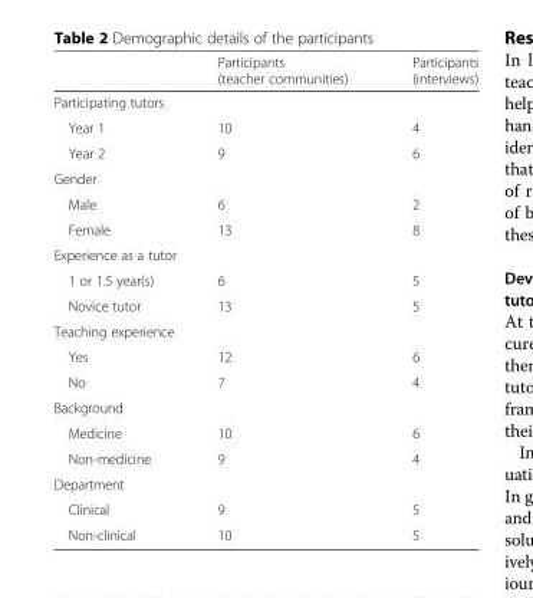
<table><thead><tr><td></td><td>Participants (teacher communities)</td><td>Participants (interviews)</td></tr></thead><tbody><tr><td colspan="3">Participating tutors</td></tr><tr><td>Year 1</td><td>10</td><td>4</td></tr><tr><td>Year 2</td><td>9</td><td>6</td></tr><tr><td colspan="3">Gender</td></tr><tr><td>Male</td><td>6</td><td>2</td></tr><tr><td>Female</td><td>13</td><td>8</td></tr><tr><td colspan="3">Experience as a tutor</td></tr><tr><td>1 or 1.5 year(s)</td><td>6</td><td>5</td></tr><tr><td>Novice tutor</td><td>13</td><td>5</td></tr><tr><td colspan="3">Teaching experience</td></tr><tr><td>Yes</td><td>12</td><td>6</td></tr><tr><td>No</td><td>7</td><td>4</td></tr><tr><td colspan="3">Background</td></tr><tr><td>Medicine</td><td>10</td><td>6</td></tr><tr><td>Non-medicine</td><td>9</td><td>4</td></tr><tr><td colspan="3">Department</td></tr><tr><td>Clinical</td><td>9</td><td>5</td></tr><tr><td>Non-clinical</td><td>10</td><td>5</td></tr></tbody></table>